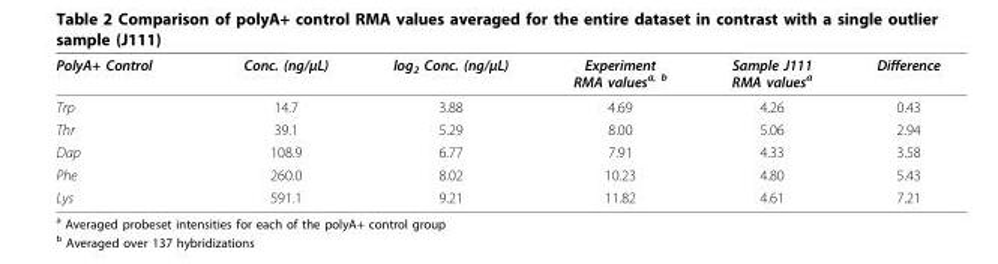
<table><tbody><tr><td>PolyA+ Control</td><td>Conc. (ng/μL)</td><td>log<sub>2</sub> Conc. (ng/μL)</td><td>Experiment RMA values<sup>a, b</sup></td><td>Sample J111 RMA values<sup>a</sup></td><td>Difference</td></tr><tr><td>Trp</td><td>14.7</td><td>3.88</td><td>4.69</td><td>4.26</td><td>0.43</td></tr><tr><td>Thr</td><td>39.1</td><td>5.29</td><td>8.00</td><td>5.06</td><td>2.94</td></tr><tr><td>Dap</td><td>108.9</td><td>6.77</td><td>7.91</td><td>4.33</td><td>3.58</td></tr><tr><td>Phe</td><td>260.0</td><td>8.02</td><td>10.23</td><td>4.80</td><td>5.43</td></tr><tr><td>Lys</td><td>591.1</td><td>9.21</td><td>11.82</td><td>4.61</td><td>7.21</td></tr></tbody></table>